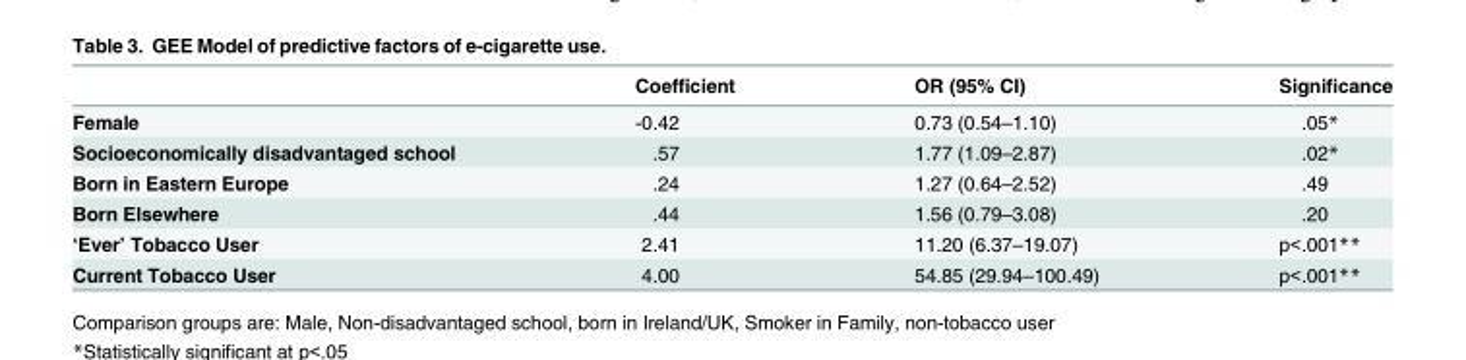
<table><thead><tr><td></td><td>Coefficient</td><td>OR (95% CI)</td><td>Significance</td></tr></thead><tbody><tr><td>Female</td><td>-0.42</td><td>0.73 (0.54–1.10)</td><td>.05*</td></tr><tr><td>Socioeconomically disadvantaged school</td><td>.57</td><td>1.77 (1.09–2.87)</td><td>.02*</td></tr><tr><td>Born in Eastern Europe</td><td>.24</td><td>1.27 (0.64–2.52)</td><td>.49</td></tr><tr><td>Born Elsewhere</td><td>.44</td><td>1.56 (0.79–3.08)</td><td>.20</td></tr><tr><td>‘Ever’ Tobacco User</td><td>2.41</td><td>11.20 (6.37–19.07)</td><td>p&lt;.001**</td></tr><tr><td>Current Tobacco User</td><td>4.00</td><td>54.85 (29.94–100.49)</td><td>p&lt;.001**</td></tr></tbody></table>